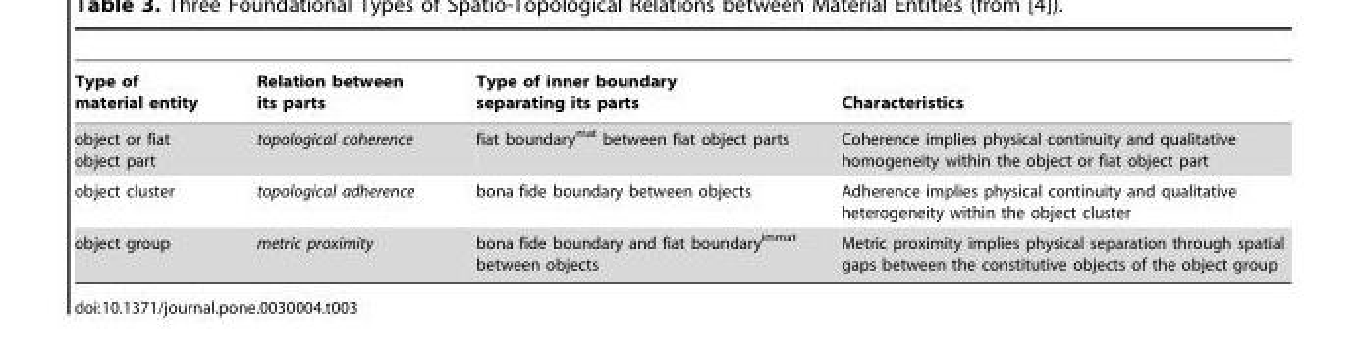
<table><thead><tr><td>Type of material entity</td><td>Relation between its parts</td><td>Type of inner boundary separating its parts</td><td>Characteristics</td></tr></thead><tbody><tr><td>object or fiat object part</td><td>topological coherence</td><td>fiat boundary<sup>mat</sup> between fiat object parts</td><td>Coherence implies physical continuity and qualitative homogeneity within the object or fiat object part</td></tr><tr><td>object cluster</td><td>topological adherence</td><td>bona fide boundary between objects</td><td>Adherence implies physical continuity and qualitative heterogeneity within the object cluster</td></tr><tr><td>object group</td><td>metric proximity</td><td>bona fide boundary and fiat boundary<sup>immat</sup> between objects</td><td>Metric proximity implies physical separation through spatial gaps between the constitutive objects of the object group</td></tr></tbody></table>